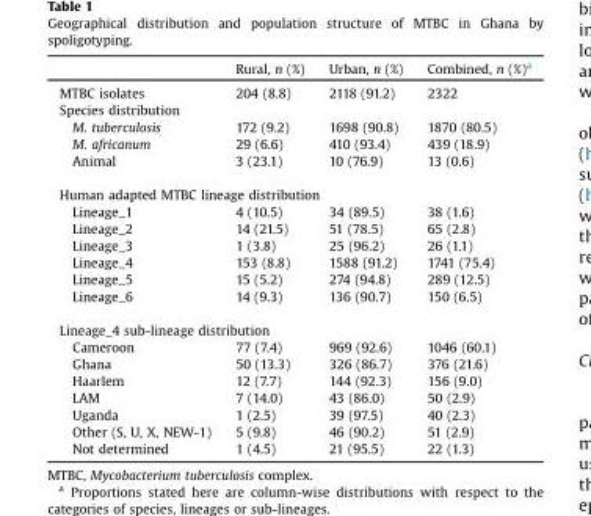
<table><thead><tr><td></td><td>Rural, n (%)</td><td>Urban, n (%)</td><td>Combined, n (%)<sup>a</sup></td></tr></thead><tbody><tr><td>MTBC isolates</td><td>204 (8.8)</td><td>2118 (91.2)</td><td>2322</td></tr><tr><td colspan="4">Species distribution</td></tr><tr><td>M. tuberculosis</td><td>172 (9.2)</td><td>1698 (90.8)</td><td>1870 (80.5)</td></tr><tr><td>M. africanum</td><td>29 (6.6)</td><td>410 (93.4)</td><td>439 (18.9)</td></tr><tr><td>Animal</td><td>3 (23.1)</td><td>10 (76.9)</td><td>13 (0.6)</td></tr><tr><td colspan="4">Human adapted MTBC lineage distribution</td></tr><tr><td>Lineage_1</td><td>4 (10.5)</td><td>34 (89.5)</td><td>38 (1.6)</td></tr><tr><td>Lineage_2</td><td>14 (21.5)</td><td>51 (78.5)</td><td>65 (2.8)</td></tr><tr><td>Lineage_3</td><td>1 (3.8)</td><td>25 (96.2)</td><td>26 (1.1)</td></tr><tr><td>Lineage_4</td><td>153 (8.8)</td><td>1588 (91.2)</td><td>1741 (75.4)</td></tr><tr><td>Lineage_5</td><td>15 (5.2)</td><td>274 (94.8)</td><td>289 (12.5)</td></tr><tr><td>Lineage_6</td><td>14 (9.3)</td><td>136 (90.7)</td><td>150 (6.5)</td></tr><tr><td colspan="4">Lineage_4 sub-lineage distribution</td></tr><tr><td>Cameroon</td><td>77 (7.4)</td><td>969 (92.6)</td><td>1046 (60.1)</td></tr><tr><td>Ghana</td><td>50 (13.3)</td><td>326 (86.7)</td><td>376 (21.6)</td></tr><tr><td>Haarlem</td><td>12 (7.7)</td><td>144 (92.3)</td><td>156 (9.0)</td></tr><tr><td>LAM</td><td>7 (14.0)</td><td>43 (86.0)</td><td>50 (2.9)</td></tr><tr><td>Uganda</td><td>1 (2.5)</td><td>39 (97.5)</td><td>40 (2.3)</td></tr><tr><td>Other (S, U, X, NEW-1)</td><td>5 (9.8)</td><td>46 (90.2)</td><td>51 (2.9)</td></tr><tr><td>Not determined</td><td>1 (4.5)</td><td>21 (95.5)</td><td>22 (1.3)</td></tr></tbody></table>